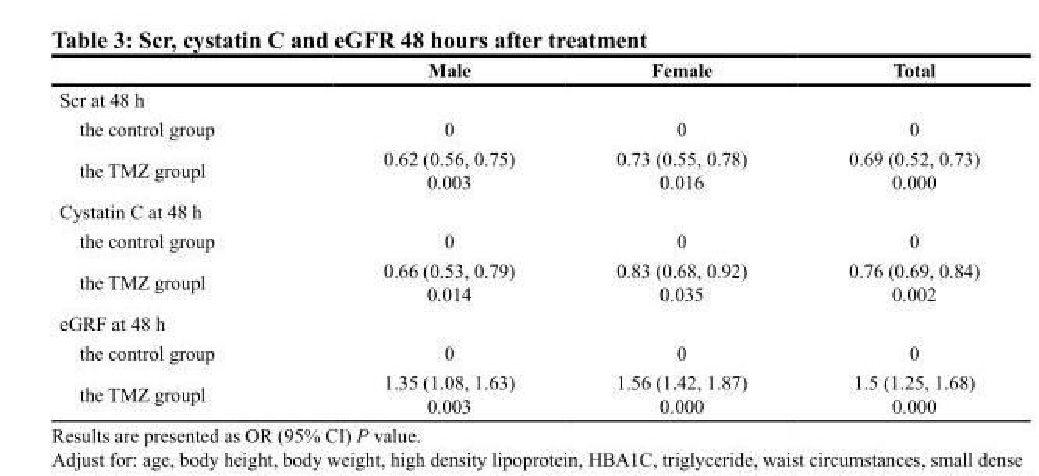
<table><thead><tr><td></td><td>Male</td><td>Female</td><td>Total</td></tr></thead><tbody><tr><td colspan="4">Scr at 48 h</td></tr><tr><td>the control group</td><td>0</td><td>0</td><td>0</td></tr><tr><td>the TMZ groupl</td><td>0.62 (0.56, 0.75) 0.003</td><td>0.73 (0.55, 0.78) 0.016</td><td>0.69 (0.52, 0.73) 0.000</td></tr><tr><td colspan="4">Cystatin C at 48 h</td></tr><tr><td>the control group</td><td>0</td><td>0</td><td>0</td></tr><tr><td>the TMZ groupl</td><td>0.66 (0.53, 0.79) 0.014</td><td>0.83 (0.68, 0.92) 0.035</td><td>0.76 (0.69, 0.84) 0.002</td></tr><tr><td colspan="4">eGRF at 48 h</td></tr><tr><td>the control group</td><td>0</td><td>0</td><td>0</td></tr><tr><td>the TMZ groupl</td><td>1.35 (1.08, 1.63) 0.003</td><td>1.56 (1.42, 1.87) 0.000</td><td>1.5 (1.25, 1.68) 0.000</td></tr></tbody></table>